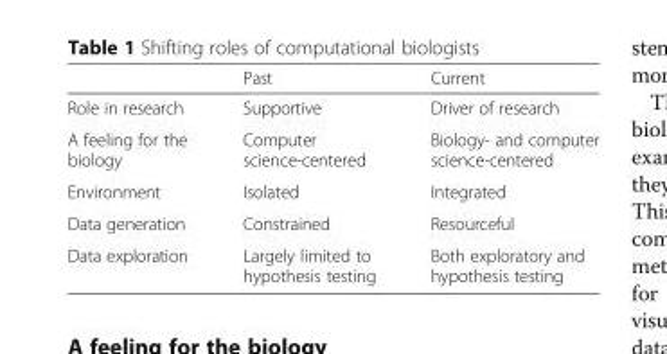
<table><thead><tr><td></td><td>Past</td><td>Current</td></tr></thead><tbody><tr><td>Role in research</td><td>Supportive</td><td>Driver of research</td></tr><tr><td>A feeling for the biology</td><td>Computer science-centered</td><td>Biology- and computer science-centered</td></tr><tr><td>Environment</td><td>Isolated</td><td>Integrated</td></tr><tr><td>Data generation</td><td>Constrained</td><td>Resourceful</td></tr><tr><td>Data exploration</td><td>Largely limited to hypothesis testing</td><td>Both exploratory and hypothesis testing</td></tr></tbody></table>